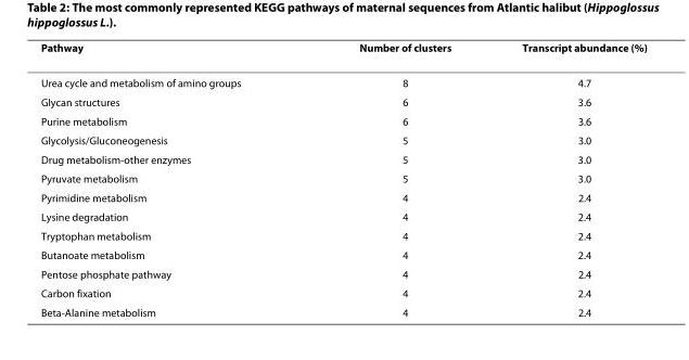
<table><thead><tr><td>Pathway</td><td>Number of clusters</td><td>Transcript abundance (%)</td></tr></thead><tbody><tr><td>Urea cycle and metabolism of amino groups</td><td>8</td><td>4.7</td></tr><tr><td>Glycan structures</td><td>6</td><td>3.6</td></tr><tr><td>Purine metabolism</td><td>6</td><td>3.6</td></tr><tr><td>Glycolysis/Gluconeogenesis</td><td>5</td><td>3.0</td></tr><tr><td>Drug metabolism-other enzymes</td><td>5</td><td>3.0</td></tr><tr><td>Pyruvate metabolism</td><td>5</td><td>3.0</td></tr><tr><td>Pyrimidine metabolism</td><td>4</td><td>2.4</td></tr><tr><td>Lysine degradation</td><td>4</td><td>2.4</td></tr><tr><td>Tryptophan metabolism</td><td>4</td><td>2.4</td></tr><tr><td>Butanoate metabolism</td><td>4</td><td>2.4</td></tr><tr><td>Pentose phosphate pathway</td><td>4</td><td>2.4</td></tr><tr><td>Carbon fixation</td><td>4</td><td>2.4</td></tr><tr><td>Beta-Alanine metabolism</td><td>4</td><td>2.4</td></tr></tbody></table>